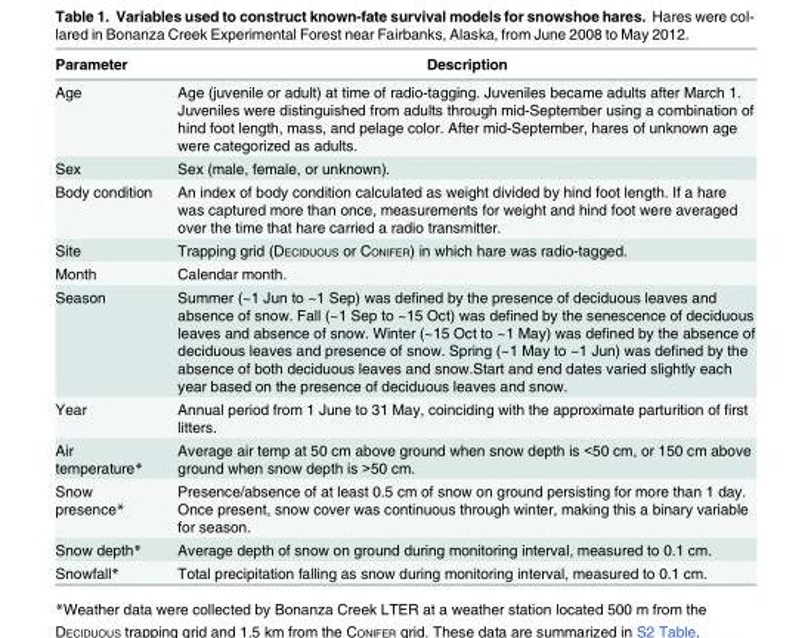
<table><thead><tr><td>Parameter</td><td>Description</td></tr></thead><tbody><tr><td>Age</td><td>Age (juvenile or adult) at time of radio-tagging. Juveniles became adults after March 1. Juveniles were distinguished from adults through mid-September using a combination of hind foot length, mass, and pelage color. After mid-September, hares of unknown age were categorized as adults.</td></tr><tr><td>Sex</td><td>Sex (male, female, or unknown).</td></tr><tr><td>Body condition</td><td>An index of body condition calculated as weight divided by hind foot length. If a hare was captured more than once, measurements for weight and hind foot were averaged over the time that hare carried a radio transmitter.</td></tr><tr><td>Site</td><td>Trapping grid (DECIDUOUS or CONIFER) in which hare was radio-tagged.</td></tr><tr><td>Month</td><td>Calendar month.</td></tr><tr><td>Season</td><td>Summer (~1 Jun to ~1 Sep) was defined by the presence of deciduous leaves and absence of snow. Fall (~1 Sep to ~15 Oct) was defined by the senescence of deciduous leaves and absence of snow. Winter (~15 Oct to ~1 May) was defined by the absence of deciduous leaves and presence of snow. Spring (~1 May to ~1 Jun) was defined by the absence of both deciduous leaves and snow.Start and end dates varied slightly each year based on the presence of deciduous leaves and snow.</td></tr><tr><td>Year</td><td>Annual period from 1 June to 31 May, coinciding with the approximate parturition of first litters.</td></tr><tr><td>Air temperature*</td><td>Average air temp at 50 cm above ground when snow depth is &lt;50 cm, or 150 cm above ground when snow depth is &gt;50 cm.</td></tr><tr><td>Snow presence*</td><td>Presence/absence of at least 0.5 cm of snow on ground persisting for more than 1 day. Once present, snow cover was continuous through winter, making this a binary variable for season.</td></tr><tr><td>Snow depth*</td><td>Average depth of snow on ground during monitoring interval, measured to 0.1 cm.</td></tr><tr><td>Snowfall*</td><td>Total precipitation falling as snow during monitoring interval, measured to 0.1 cm.</td></tr></tbody></table>